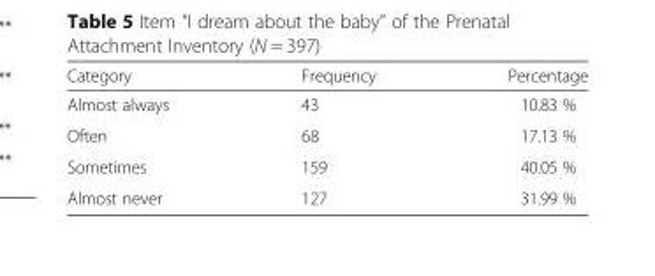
<table><thead><tr><td>Category</td><td>Frequency</td><td>Percentage</td></tr></thead><tbody><tr><td>Almost always</td><td>43</td><td>10.83 %</td></tr><tr><td>Often</td><td>68</td><td>17.13 %</td></tr><tr><td>Sometimes</td><td>159</td><td>40.05 %</td></tr><tr><td>Almost never</td><td>127</td><td>31.99 %</td></tr></tbody></table>